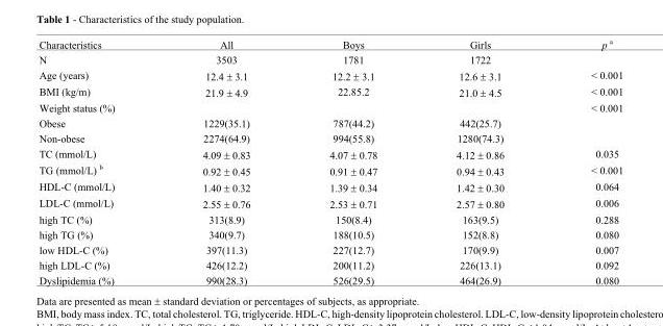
<table><thead><tr><td>Characteristics</td><td>All</td><td>Boys</td><td>Girls</td><td>p <sup>a</sup></td></tr></thead><tbody><tr><td>N</td><td>3503</td><td>1781</td><td>1722</td><td></td></tr><tr><td>Age (years)</td><td>12.4 ± 3.1</td><td>12.2 ± 3.1</td><td>12.6 ± 3.1</td><td>&lt; 0.001</td></tr><tr><td>BMI (kg/m)</td><td>21.9 ± 4.9</td><td>22.85.2</td><td>21.0 ± 4.5</td><td>&lt; 0.001</td></tr><tr><td>Weight status (%)</td><td></td><td></td><td></td><td>&lt; 0.001</td></tr><tr><td>Obese</td><td>1229(35.1)</td><td>787(44.2)</td><td>442(25.7)</td><td></td></tr><tr><td>Non-obese</td><td>2274(64.9)</td><td>994(55.8)</td><td>1280(74.3)</td><td></td></tr><tr><td>TC (mmol/L)</td><td>4.09 ± 0.83</td><td>4.07 ± 0.78</td><td>4.12 ± 0.86</td><td>0.035</td></tr><tr><td>TG (mmol/L) <sup>b</sup></td><td>0.92 ± 0.45</td><td>0.91 ± 0.47</td><td>0.94 ± 0.43</td><td>&lt; 0.001</td></tr><tr><td>HDL-C (mmol/L)</td><td>1.40 ± 0.32</td><td>1.39 ± 0.34</td><td>1.42 ± 0.30</td><td>0.064</td></tr><tr><td>LDL-C (mmol/L)</td><td>2.55 ± 0.76</td><td>2.53 ± 0.71</td><td>2.57 ± 0.80</td><td>0.006</td></tr><tr><td>high TC (%)</td><td>313(8.9)</td><td>150(8.4)</td><td>163(9.5)</td><td>0.288</td></tr><tr><td>high TG (%)</td><td>340(9.7)</td><td>188(10.5)</td><td>152(8.8)</td><td>0.080</td></tr><tr><td>low HDL-C (%)</td><td>397(11.3)</td><td>227(12.7)</td><td>170(9.9)</td><td>0.007</td></tr><tr><td>high LDL-C (%)</td><td>426(12.2)</td><td>200(11.2)</td><td>226(13.1)</td><td>0.092</td></tr><tr><td>Dyslipidemia (%)</td><td>990(28.3)</td><td>526(29.5)</td><td>464(26.9)</td><td>0.080</td></tr></tbody></table>